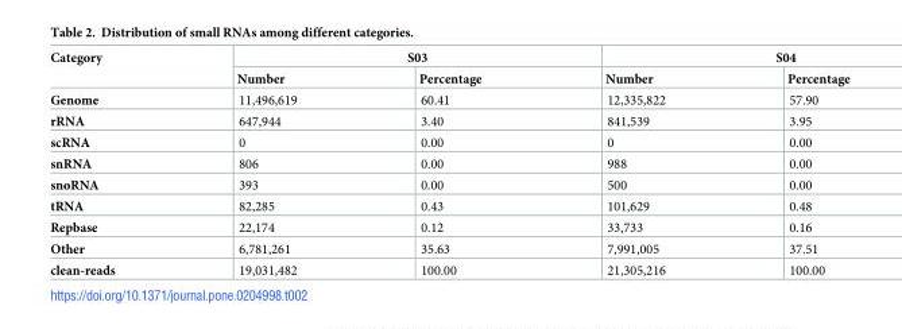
<table><thead><tr><td rowspan="2">Category</td><td colspan="2">S03</td><td colspan="2">S04</td></tr><tr><td>Number</td><td>Percentage</td><td>Number</td><td>Percentage</td></tr></thead><tbody><tr><td>Genome</td><td>11,496,619</td><td>60.41</td><td>12,335,822</td><td>57.90</td></tr><tr><td>rRNA</td><td>647,944</td><td>3.40</td><td>841,539</td><td>3.95</td></tr><tr><td>scRNA</td><td>0</td><td>0.00</td><td>0</td><td>0.00</td></tr><tr><td>snRNA</td><td>806</td><td>0.00</td><td>988</td><td>0.00</td></tr><tr><td>snoRNA</td><td>393</td><td>0.00</td><td>500</td><td>0.00</td></tr><tr><td>tRNA</td><td>82,285</td><td>0.43</td><td>101,629</td><td>0.48</td></tr><tr><td>Repbase</td><td>22,174</td><td>0.12</td><td>33,733</td><td>0.16</td></tr><tr><td>Other</td><td>6,781,261</td><td>35.63</td><td>7,991,005</td><td>37.51</td></tr><tr><td>clean-reads</td><td>19,031,482</td><td>100.00</td><td>21,305,216</td><td>100.00</td></tr></tbody></table>